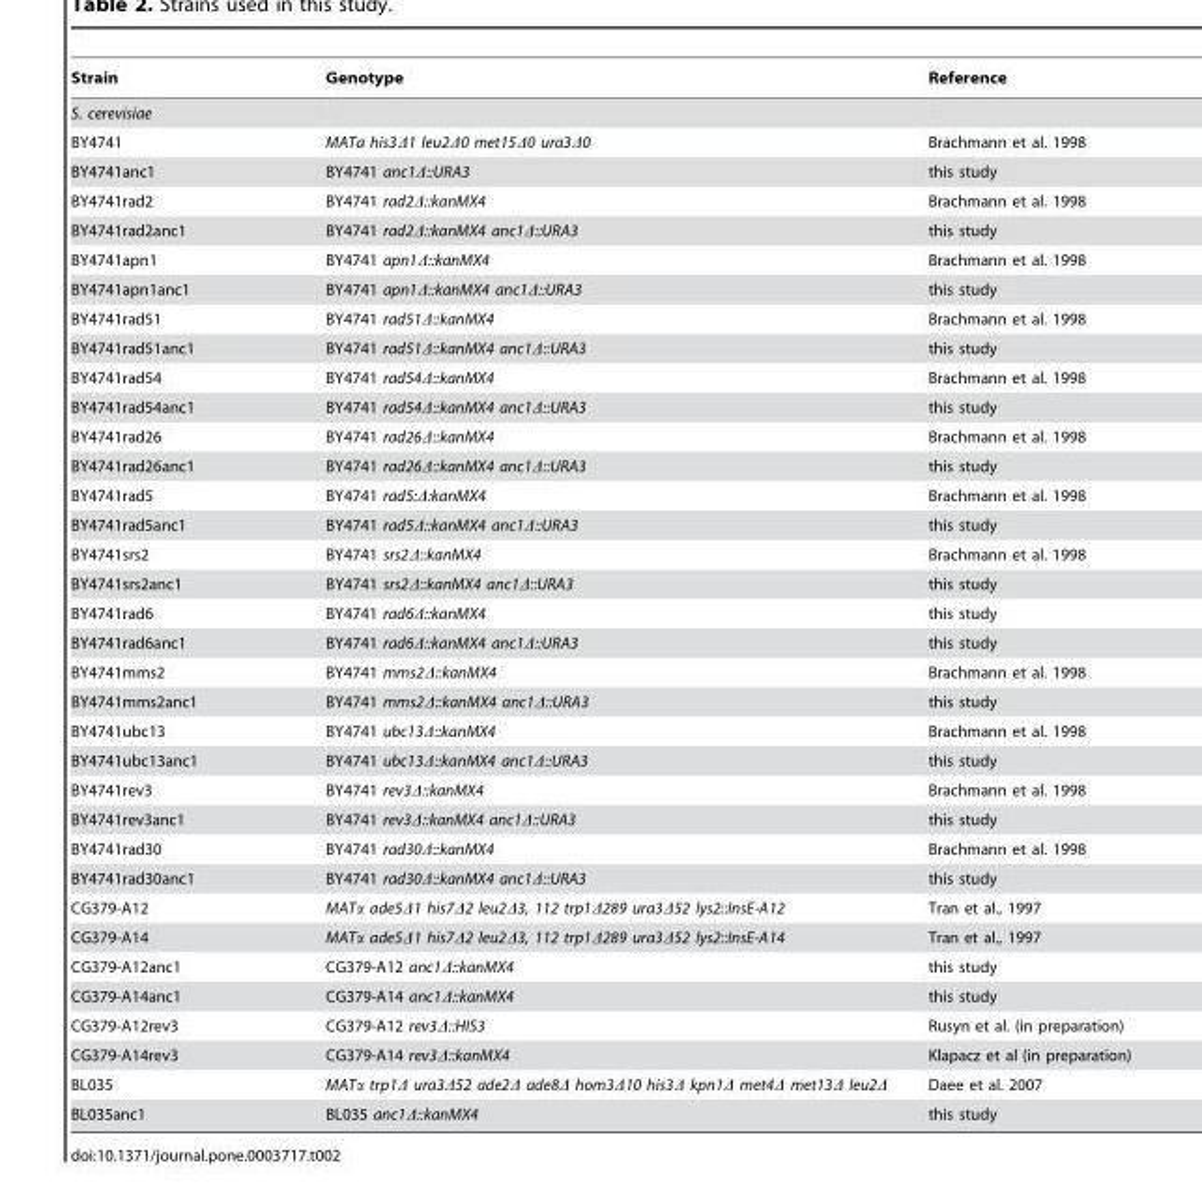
<table><thead><tr><td>Strain</td><td>Genotype</td><td>Reference</td></tr></thead><tbody><tr><td colspan="3">S. cerevisiae</td></tr><tr><td>BY4741</td><td>MATa his3Δ1 leu2Δ0 met15Δ0 ura3Δ0</td><td>Brachmann et al. 1998</td></tr><tr><td>BY4741anc1</td><td>BY4741 anc1Δ::URA3</td><td>this study</td></tr><tr><td>BY4741rad2</td><td>BY4741 rad2Δ::kanMX4</td><td>Brachmann et al. 1998</td></tr><tr><td>BY4741rad2anc1</td><td>BY4741 rad2Δ::kanMX4 anc1Δ::URA3</td><td>this study</td></tr><tr><td>BY4741apn1</td><td>BY4741 apn1Δ::kanMX4</td><td>Brachmann et al. 1998</td></tr><tr><td>BY4741apn1anc1</td><td>BY4741 apn1Δ::kanMX4 anc1Δ::URA3</td><td>this study</td></tr><tr><td>BY4741rad51</td><td>BY4741 rad51Δ::kanMX4</td><td>Brachmann et al. 1998</td></tr><tr><td>BY4741rad51anc1</td><td>BY4741 rad51Δ::kanMX4 anc1Δ::URA3</td><td>this study</td></tr><tr><td>BY4741rad54</td><td>BY4741 rad54Δ::kanMX4</td><td>Brachmann et al. 1998</td></tr><tr><td>BY4741rad54anc1</td><td>BY4741 rad54Δ::kanMX4 anc1Δ::URA3</td><td>this study</td></tr><tr><td>BY4741rad26</td><td>BY4741 rad26Δ::kanMX4</td><td>Brachmann et al. 1998</td></tr><tr><td>BY4741rad26anc1</td><td>BY4741 rad26Δ::kanMX4 anc1Δ::URA3</td><td>this study</td></tr><tr><td>BY4741rad5</td><td>BY4741 rad5:Δ:kanMX4</td><td>Brachmann et al. 1998</td></tr><tr><td>BY4741rad5anc1</td><td>BY4741 rad5Δ::kanMX4 anc1Δ::URA3</td><td>this study</td></tr><tr><td>BY4741srs2</td><td>BY4741 srs2Δ::kanMX4</td><td>Brachmann et al. 1998</td></tr><tr><td>BY4741srs2anc1</td><td>BY4741 srs2Δ::kanMX4 anc1Δ::URA3</td><td>this study</td></tr><tr><td>BY4741rad6</td><td>BY4741 rad6Δ::kanMX4</td><td>this study</td></tr><tr><td>BY4741rad6anc1</td><td>BY4741 rad6Δ::kanMX4 anc1Δ::URA3</td><td>this study</td></tr><tr><td>BY4741mms2</td><td>BY4741 mms2Δ::kanMX4</td><td>Brachmann et al. 1998</td></tr><tr><td>BY4741mms2anc1</td><td>BY4741 mms2Δ::kanMX4 anc1Δ::URA3</td><td>this study</td></tr><tr><td>BY4741ubc13</td><td>BY4741 ubc13Δ::kanMX4</td><td>Brachmann et al. 1998</td></tr><tr><td>BY4741ubc13anc1</td><td>BY4741 ubc13Δ::kanMX4 anc1Δ::URA3</td><td>this study</td></tr><tr><td>BY4741rev3</td><td>BY4741 rev3Δ::kanMX4</td><td>Brachmann et al. 1998</td></tr><tr><td>BY4741rev3anc1</td><td>BY4741 rev3Δ::kanMX4 anc1Δ::URA3</td><td>this study</td></tr><tr><td>BY4741rad30</td><td>BY4741 rad30Δ::kanMX4</td><td>Brachmann et al. 1998</td></tr><tr><td>BY4741rad30anc1</td><td>BY4741 rad30Δ::kanMX4 anc1Δ::URA3</td><td>this study</td></tr><tr><td>CG379-A12</td><td>MATα ade5Δ1 his7Δ2 leu2Δ3, 112 trp1Δ289 ura3Δ52 lys2::InsE-A12</td><td>Tran et al., 1997</td></tr><tr><td>CG379-A14</td><td>MATα ade5Δ1 his7Δ2 leu2Δ3, 112 trp1Δ289 ura3Δ52 lys2::InsE-A14</td><td>Tran et al., 1997</td></tr><tr><td>CG379-A12anc1</td><td>CG379-A12 anc1Δ::kanMX4</td><td>this study</td></tr><tr><td>CG379-A14anc1</td><td>CG379-A14 anc1Δ::kanMX4</td><td>this study</td></tr><tr><td>CG379-A12rev3</td><td>CG379-A12 rev3Δ::HIS3</td><td>Rusyn et al. (in preparation)</td></tr><tr><td>CG379-A14rev3</td><td>CG379-A14 rev3Δ::kanMX4</td><td>Klapacz et al (in preparation)</td></tr><tr><td>BL035</td><td>MATα trp1Δ ura3Δ52 ade2Δ ade8Δ hom3Δ10 his3Δ kpn1Δ met4Δ met13Δ leu2Δ</td><td>Daee et al. 2007</td></tr><tr><td>BL035anc1</td><td>BL035 anc1Δ::kanMX4</td><td>this study</td></tr></tbody></table>